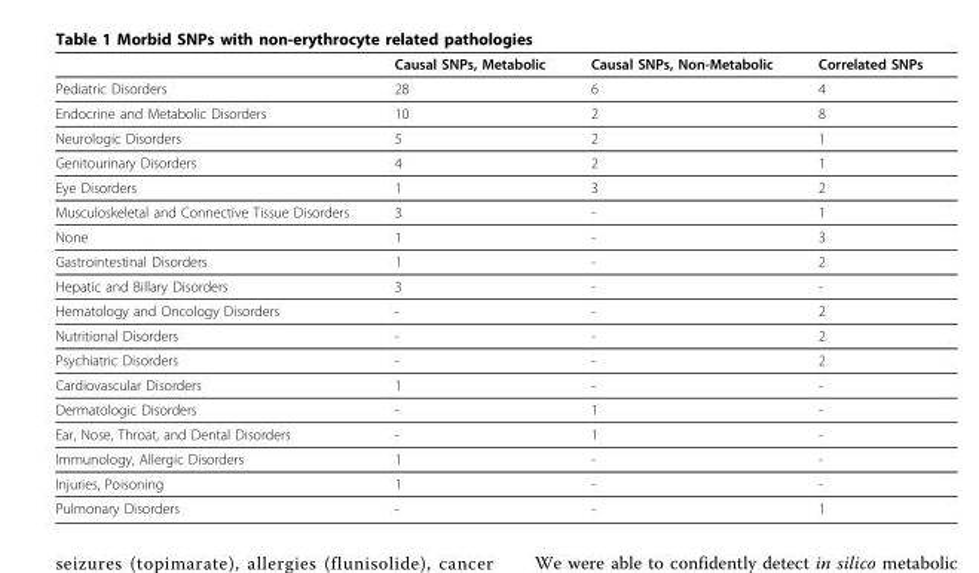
<table><thead><tr><td></td><td>Causal SNPs, Metabolic</td><td>Causal SNPs, Non-Metabolic</td><td>Correlated SNPs</td></tr></thead><tbody><tr><td>Pediatric Disorders</td><td>28</td><td>6</td><td>4</td></tr><tr><td>Endocrine and Metabolic Disorders</td><td>10</td><td>2</td><td>8</td></tr><tr><td>Neurologic Disorders</td><td>5</td><td>2</td><td>1</td></tr><tr><td>Genitourinary Disorders</td><td>4</td><td>2</td><td>1</td></tr><tr><td>Eye Disorders</td><td>1</td><td>3</td><td>2</td></tr><tr><td>Musculoskeletal and Connective Tissue Disorders</td><td>3</td><td>-</td><td>1</td></tr><tr><td>None</td><td>1</td><td>-</td><td>3</td></tr><tr><td>Gastrointestinal Disorders</td><td>1</td><td>-</td><td>2</td></tr><tr><td>Hepatic and Billary Disorders</td><td>3</td><td>-</td><td>-</td></tr><tr><td>Hematology and Oncology Disorders</td><td>-</td><td>-</td><td>2</td></tr><tr><td>Nutritional Disorders</td><td>-</td><td>-</td><td>2</td></tr><tr><td>Psychiatric Disorders</td><td>-</td><td>-</td><td>2</td></tr><tr><td>Cardiovascular Disorders</td><td>1</td><td>-</td><td>-</td></tr><tr><td>Dermatologic Disorders</td><td>-</td><td>1</td><td>-</td></tr><tr><td>Ear, Nose, Throat, and Dental Disorders</td><td>-</td><td>1</td><td>-</td></tr><tr><td>Immunology, Allergic Disorders</td><td>1</td><td>-</td><td>-</td></tr><tr><td>Injuries, Poisoning</td><td>1</td><td>-</td><td>-</td></tr><tr><td>Pulmonary Disorders</td><td>-</td><td>-</td><td>1</td></tr></tbody></table>